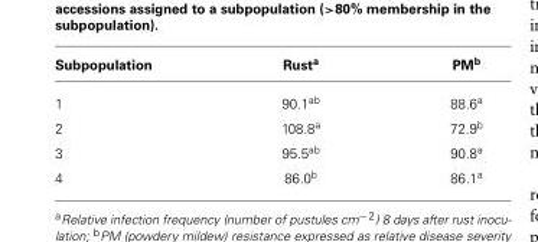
<table><thead><tr><td>Subpopulation</td><td>Rust<sup>a</sup></td><td>PM<sup>b</sup></td></tr></thead><tbody><tr><td>1</td><td>90.1<sup>ab</sup></td><td>88.6<sup>a</sup></td></tr><tr><td>2</td><td>108.8<sup>a</sup></td><td>72.9<sup>b</sup></td></tr><tr><td>3</td><td>95.5<sup>ab</sup></td><td>90.8<sup>a</sup></td></tr><tr><td>4</td><td>86.0<sup>b</sup></td><td>86.1<sup>a</sup></td></tr></tbody></table>